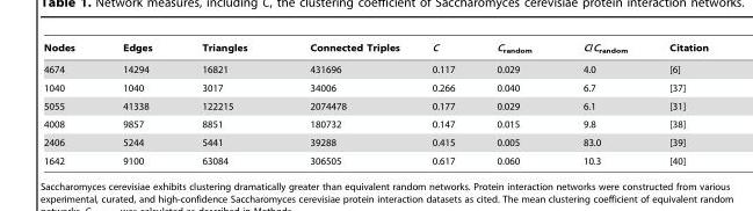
<table><thead><tr><td>Nodes</td><td>Edges</td><td>Triangles</td><td>Connected Triples</td><td>C</td><td>C<sub>random</sub></td><td>C/C<sub>random</sub></td><td>Citation</td></tr></thead><tbody><tr><td>4674</td><td>14294</td><td>16821</td><td>431696</td><td>0.117</td><td>0.029</td><td>4.0</td><td>[6]</td></tr><tr><td>1040</td><td>1040</td><td>3017</td><td>34006</td><td>0.266</td><td>0.040</td><td>6.7</td><td>[37]</td></tr><tr><td>5055</td><td>41338</td><td>122215</td><td>2074478</td><td>0.177</td><td>0.029</td><td>6.1</td><td>[31]</td></tr><tr><td>4008</td><td>9857</td><td>8851</td><td>180732</td><td>0.147</td><td>0.015</td><td>9.8</td><td>[38]</td></tr><tr><td>2406</td><td>5244</td><td>5441</td><td>39288</td><td>0.415</td><td>0.005</td><td>83.0</td><td>[39]</td></tr><tr><td>1642</td><td>9100</td><td>63084</td><td>306505</td><td>0.617</td><td>0.060</td><td>10.3</td><td>[40]</td></tr></tbody></table>